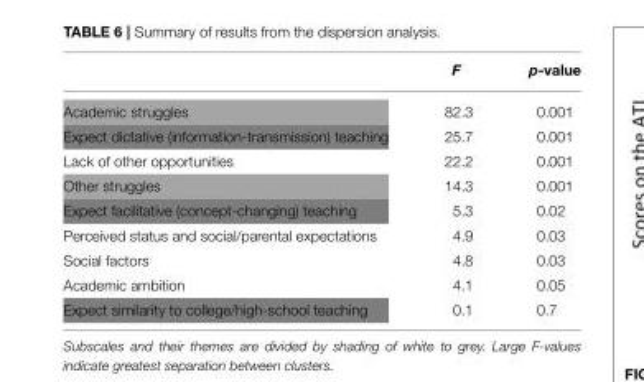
<table><thead><tr><td></td><td>F</td><td>p-value</td></tr></thead><tbody><tr><td>Academic struggles</td><td>82.3</td><td>0.001</td></tr><tr><td>Expect dictative (information-transmission) teaching</td><td>25.7</td><td>0.001</td></tr><tr><td>Lack of other opportunities</td><td>22.2</td><td>0.001</td></tr><tr><td>Other struggles</td><td>14.3</td><td>0.001</td></tr><tr><td>Expect facilitative (concept-changing) teaching</td><td>5.3</td><td>0.02</td></tr><tr><td>Perceived status and social/parental expectations</td><td>4.9</td><td>0.03</td></tr><tr><td>Social factors</td><td>4.8</td><td>0.03</td></tr><tr><td>Academic ambition</td><td>4.1</td><td>0.05</td></tr><tr><td>Expect similarity to college/high-school teaching</td><td>0.1</td><td>0.7</td></tr></tbody></table>